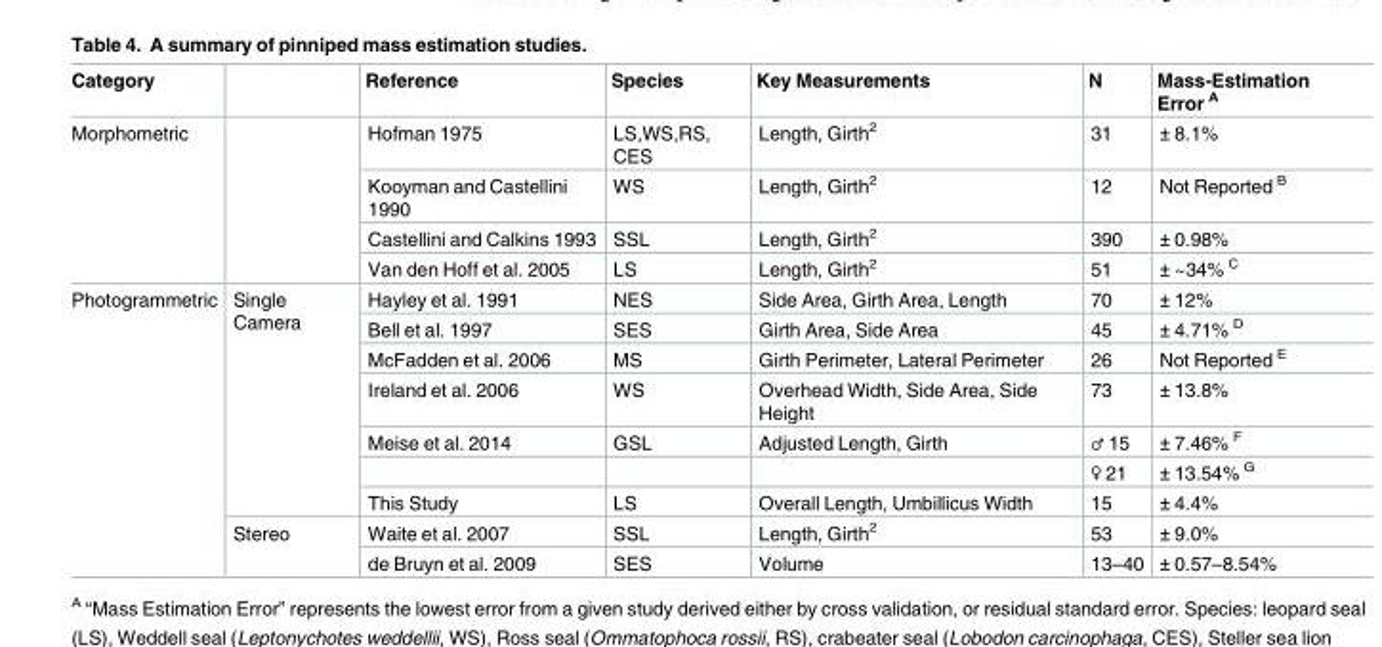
<table><thead><tr><td>Category</td><td></td><td>Reference</td><td>Species</td><td>Key Measurements</td><td>N</td><td>Mass-Estimation Error <sup>A</sup></td></tr></thead><tbody><tr><td rowspan="4">Morphometric</td><td rowspan="4"></td><td>Hofman 1975</td><td>LS,WS,RS, CES</td><td>Length, Girth<sup>2</sup></td><td>31</td><td>± 8.1%</td></tr><tr><td>Kooyman and Castellini 1990</td><td>WS</td><td>Length, Girth<sup>2</sup></td><td>12</td><td>Not Reported <sup>B</sup></td></tr><tr><td>Castellini and Calkins 1993</td><td>SSL</td><td>Length, Girth<sup>2</sup></td><td>390</td><td>± 0.98%</td></tr><tr><td>Van den Hoff et al. 2005</td><td>LS</td><td>Length, Girth<sup>2</sup></td><td>51</td><td>± ~34% <sup>C</sup></td></tr><tr><td rowspan="9">Photogrammetric</td><td rowspan="7">Single Camera</td><td>Hayley et al. 1991</td><td>NES</td><td>Side Area, Girth Area, Length</td><td>70</td><td>± 12%</td></tr><tr><td>Bell et al. 1997</td><td>SES</td><td>Girth Area, Side Area</td><td>45</td><td>± 4.71% <sup>D</sup></td></tr><tr><td>McFadden et al. 2006</td><td>MS</td><td>Girth Perimeter, Lateral Perimeter</td><td>26</td><td>Not Reported <sup>E</sup></td></tr><tr><td>Ireland et al. 2006</td><td>WS</td><td>Overhead Width, Side Area, Side Height</td><td>73</td><td>± 13.8%</td></tr><tr><td>Meise et al. 2014</td><td>GSL</td><td>Adjusted Length, Girth</td><td>♂ 15</td><td>± 7.46% <sup>F</sup></td></tr><tr><td></td><td></td><td></td><td>♀ 21</td><td>± 13.54% <sup>G</sup></td></tr><tr><td>This Study</td><td>LS</td><td>Overall Length, Umbillicus Width</td><td>15</td><td>± 4.4%</td></tr><tr><td rowspan="2">Stereo</td><td>Waite et al. 2007</td><td>SSL</td><td>Length, Girth<sup>2</sup></td><td>53</td><td>± 9.0%</td></tr><tr><td>de Bruyn et al. 2009</td><td>SES</td><td>Volume</td><td>13–40</td><td>± 0.57–8.54%</td></tr></tbody></table>